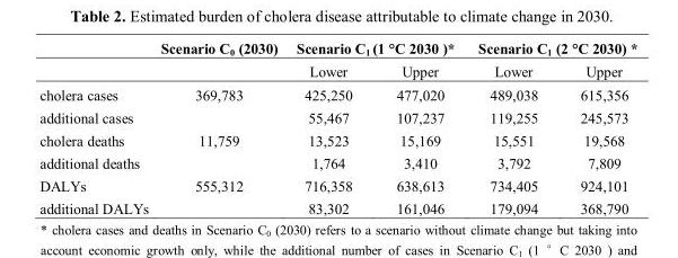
<table><thead><tr><td rowspan="2"></td><td rowspan="2">Scenario C<sub>0</sub> (2030)</td><td colspan="2">Scenario C<sub>1</sub> (1 °C 2030 )*</td><td colspan="2">Scenario C<sub>1</sub> (2 °C 2030) *</td></tr><tr><td>Lower</td><td>Upper</td><td>Lower</td><td>Upper</td></tr></thead><tbody><tr><td>cholera cases</td><td>369,783</td><td>425,250</td><td>477,020</td><td>489,038</td><td>615,356</td></tr><tr><td>additional cases</td><td></td><td>55,467</td><td>107,237</td><td>119,255</td><td>245,573</td></tr><tr><td>cholera deaths</td><td>11,759</td><td>13,523</td><td>15,169</td><td>15,551</td><td>19,568</td></tr><tr><td>additional deaths</td><td></td><td>1,764</td><td>3,410</td><td>3,792</td><td>7,809</td></tr><tr><td>DALYs</td><td>555,312</td><td>716,358</td><td>638,613</td><td>734,405</td><td>924,101</td></tr><tr><td>additional DALYs</td><td></td><td>83,302</td><td>161,046</td><td>179,094</td><td>368,790</td></tr></tbody></table>